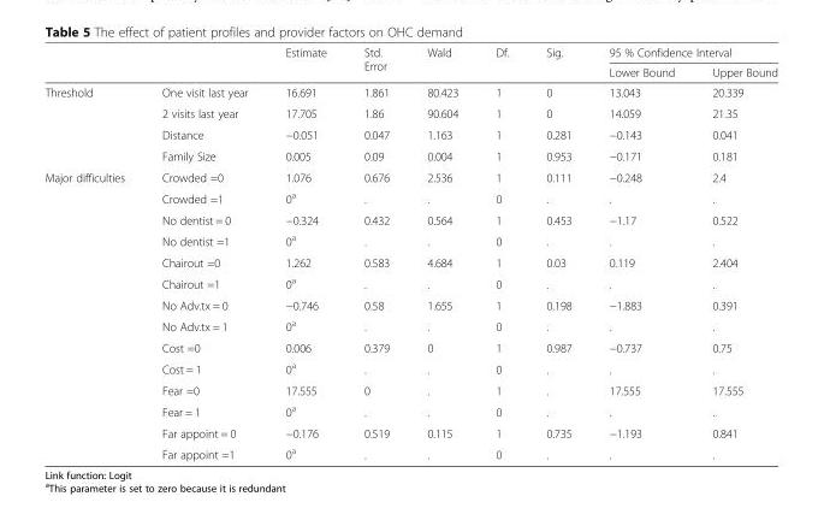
<table><thead><tr><td rowspan="2"></td><td rowspan="2"></td><td rowspan="2">Estimate</td><td rowspan="2">Std. Error</td><td rowspan="2">Wald</td><td rowspan="2">Df.</td><td rowspan="2">Sig.</td><td colspan="2">95 % Confidence Interval</td></tr><tr><td>Lower Bound</td><td>Upper Bound</td></tr></thead><tbody><tr><td rowspan="4">Threshold</td><td>One visit last year</td><td>16.691</td><td>1.861</td><td>80.423</td><td>1</td><td>0</td><td>13.043</td><td>20.339</td></tr><tr><td>2 visits last year</td><td>17.705</td><td>1.86</td><td>90.604</td><td>1</td><td>0</td><td>14.059</td><td>21.35</td></tr><tr><td>Distance</td><td>−0.051</td><td>0.047</td><td>1.163</td><td>1</td><td>0.281</td><td>−0.143</td><td>0.041</td></tr><tr><td>Family Size</td><td>0.005</td><td>0.09</td><td>0.004</td><td>1</td><td>0.953</td><td>−0.171</td><td>0.181</td></tr><tr><td rowspan="14">Major difficulties</td><td>Crowded =0</td><td>1.076</td><td>0.676</td><td>2.536</td><td>1</td><td>0.111</td><td>−0.248</td><td>2.4</td></tr><tr><td>Crowded =1</td><td>0<sup>a</sup></td><td>.</td><td>.</td><td>0</td><td>.</td><td>.</td><td>.</td></tr><tr><td>No dentist = 0</td><td>−0.324</td><td>0.432</td><td>0.564</td><td>1</td><td>0.453</td><td>−1.17</td><td>0.522</td></tr><tr><td>No dentist =1</td><td>0<sup>a</sup></td><td>.</td><td>.</td><td>0</td><td>.</td><td>.</td><td>.</td></tr><tr><td>Chairout =0</td><td>1.262</td><td>0.583</td><td>4.684</td><td>1</td><td>0.03</td><td>0.119</td><td>2.404</td></tr><tr><td>Chairout =1</td><td>0<sup>a</sup></td><td>.</td><td>.</td><td>0</td><td>.</td><td>.</td><td>.</td></tr><tr><td>No Adv.tx = 0</td><td>−0.746</td><td>0.58</td><td>1.655</td><td>1</td><td>0.198</td><td>−1.883</td><td>0.391</td></tr><tr><td>No Adv.tx = 1</td><td>0<sup>a</sup></td><td>.</td><td>.</td><td>0</td><td>.</td><td>.</td><td>.</td></tr><tr><td>Cost =0</td><td>0.006</td><td>0.379</td><td>0</td><td>1</td><td>0.987</td><td>−0.737</td><td>0.75</td></tr><tr><td>Cost = 1</td><td>0<sup>a</sup></td><td>.</td><td>.</td><td>0</td><td>.</td><td>.</td><td>.</td></tr><tr><td>Fear =0</td><td>17.555</td><td>0</td><td>.</td><td>1</td><td>.</td><td>17.555</td><td>17.555</td></tr><tr><td>Fear = 1</td><td>0<sup>a</sup></td><td>.</td><td>.</td><td>0</td><td>.</td><td>.</td><td>.</td></tr><tr><td>Far appoint = 0</td><td>−0.176</td><td>0.519</td><td>0.115</td><td>1</td><td>0.735</td><td>−1.193</td><td>0.841</td></tr><tr><td>Far appoint =1</td><td>0<sup>a</sup></td><td>.</td><td>.</td><td>0</td><td>.</td><td>.</td><td>.</td></tr></tbody></table>